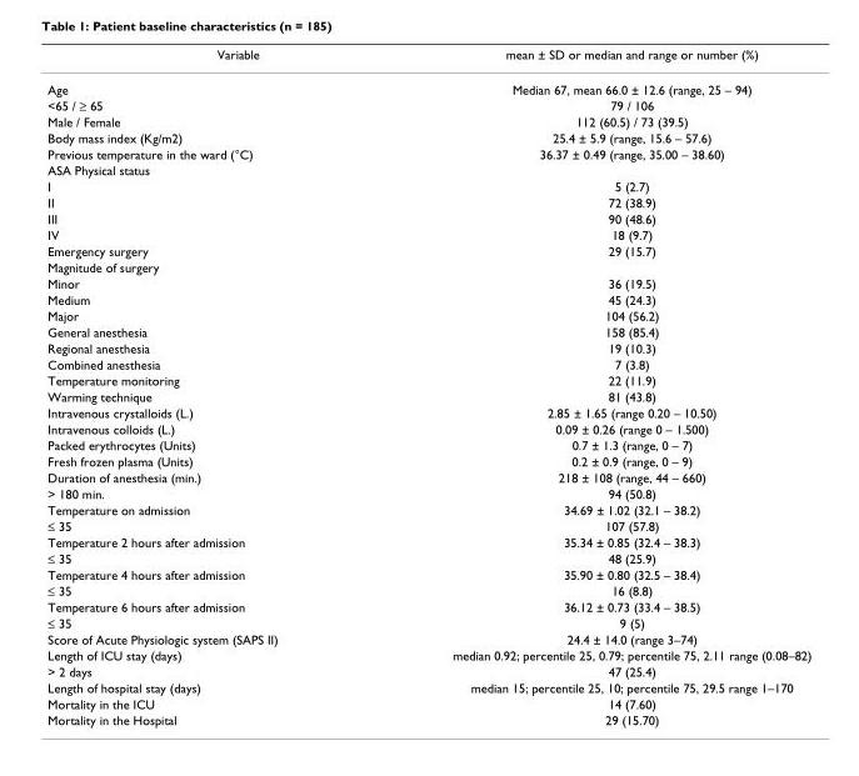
<table><thead><tr><td>Variable</td><td>mean ± SD or median and range or number (%)</td></tr></thead><tbody><tr><td>Age</td><td>Median 67, mean 66.0 ± 12.6 (range, 25 – 94)</td></tr><tr><td>&lt;65 / ≥ 65</td><td>79 / 106</td></tr><tr><td>Male / Female</td><td>112 (60.5) / 73 (39.5)</td></tr><tr><td>Body mass index (Kg/m2)</td><td>25.4 ± 5.9 (range, 15.6 – 57.6)</td></tr><tr><td>Previous temperature in the ward (°C)</td><td>36.37 ± 0.49 (range, 35.00 – 38.60)</td></tr><tr><td colspan="2">ASA Physical status</td></tr><tr><td>I</td><td>5 (2.7)</td></tr><tr><td>II</td><td>72 (38.9)</td></tr><tr><td>III</td><td>90 (48.6)</td></tr><tr><td>IV</td><td>18 (9.7)</td></tr><tr><td>Emergency surgery</td><td>29 (15.7)</td></tr><tr><td colspan="2">Magnitude of surgery</td></tr><tr><td>Minor</td><td>36 (19.5)</td></tr><tr><td>Medium</td><td>45 (24.3)</td></tr><tr><td>Major</td><td>104 (56.2)</td></tr><tr><td>General anesthesia</td><td>158 (85.4)</td></tr><tr><td>Regional anesthesia</td><td>19 (10.3)</td></tr><tr><td>Combined anesthesia</td><td>7 (3.8)</td></tr><tr><td>Temperature monitoring</td><td>22 (11.9)</td></tr><tr><td>Warming technique</td><td>81 (43.8)</td></tr><tr><td>Intravenous crystalloids (L.)</td><td>2.85 ± 1.65 (range 0.20 – 10.50)</td></tr><tr><td>Intravenous colloids (L.)</td><td>0.09 ± 0.26 (range 0 – 1.500)</td></tr><tr><td>Packed erythrocytes (Units)</td><td>0.7 ± 1.3 (range, 0 – 7)</td></tr><tr><td>Fresh frozen plasma (Units)</td><td>0.2 ± 0.9 (range, 0 – 9)</td></tr><tr><td>Duration of anesthesia (min.)</td><td>218 ± 108 (range, 44 – 660)</td></tr><tr><td>&gt; 180 min.</td><td>94 (50.8)</td></tr><tr><td>Temperature on admission</td><td>34.69 ± 1.02 (32.1 – 38.2)</td></tr><tr><td>≤ 35</td><td>107 (57.8)</td></tr><tr><td>Temperature 2 hours after admission</td><td>35.34 ± 0.85 (32.4 – 38.3)</td></tr><tr><td>≤ 35</td><td>48 (25.9)</td></tr><tr><td>Temperature 4 hours after admission</td><td>35.90 ± 0.80 (32.5 – 38.4)</td></tr><tr><td>≤ 35</td><td>16 (8.8)</td></tr><tr><td>Temperature 6 hours after admission</td><td>36.12 ± 0.73 (33.4 – 38.5)</td></tr><tr><td>≤ 35</td><td>9 (5)</td></tr><tr><td>Score of Acute Physiologic system (SAPS II)</td><td>24.4 ± 14.0 (range 3–74)</td></tr><tr><td>Length of ICU stay (days)</td><td>median 0.92; percentile 25, 0.79; percentile 75, 2.11 range (0.08–82)</td></tr><tr><td>&gt; 2 days</td><td>47 (25.4)</td></tr><tr><td>Length of hospital stay (days)</td><td>median 15; percentile 25, 10; percentile 75, 29.5 range 1–170</td></tr><tr><td>Mortality in the ICU</td><td>14 (7.60)</td></tr><tr><td>Mortality in the Hospital</td><td>29 (15.70)</td></tr></tbody></table>